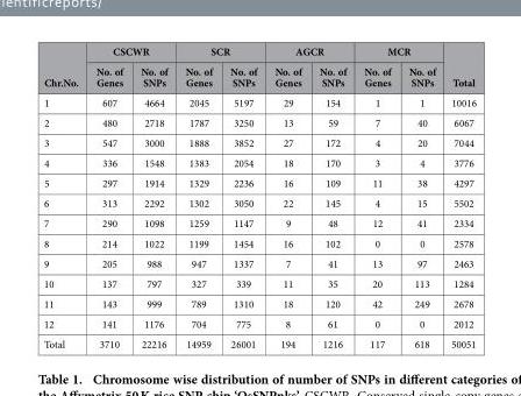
<table><thead><tr><td rowspan="2">Chr.No.</td><td colspan="2">CSCWR</td><td colspan="2">SCR</td><td colspan="2">AGCR</td><td colspan="2">MCR</td><td rowspan="2">Total</td></tr><tr><td>No. of Genes</td><td>No. of SNPs</td><td>No. of Genes</td><td>No. of SNPs</td><td>No. of Genes</td><td>No. of SNPs</td><td>No. of Genes</td><td>No. of SNPs</td></tr></thead><tbody><tr><td>1</td><td>607</td><td>4664</td><td>2045</td><td>5197</td><td>29</td><td>154</td><td>1</td><td>1</td><td>10016</td></tr><tr><td>2</td><td>480</td><td>2718</td><td>1787</td><td>3250</td><td>13</td><td>59</td><td>7</td><td>40</td><td>6067</td></tr><tr><td>3</td><td>547</td><td>3000</td><td>1888</td><td>3852</td><td>27</td><td>172</td><td>4</td><td>20</td><td>7044</td></tr><tr><td>4</td><td>336</td><td>1548</td><td>1383</td><td>2054</td><td>18</td><td>170</td><td>3</td><td>4</td><td>3776</td></tr><tr><td>5</td><td>297</td><td>1914</td><td>1329</td><td>2236</td><td>16</td><td>109</td><td>11</td><td>38</td><td>4297</td></tr><tr><td>6</td><td>313</td><td>2292</td><td>1302</td><td>3050</td><td>22</td><td>145</td><td>4</td><td>15</td><td>5502</td></tr><tr><td>7</td><td>290</td><td>1098</td><td>1259</td><td>1147</td><td>9</td><td>48</td><td>12</td><td>41</td><td>2334</td></tr><tr><td>8</td><td>214</td><td>1022</td><td>1199</td><td>1454</td><td>16</td><td>102</td><td>0</td><td>0</td><td>2578</td></tr><tr><td>9</td><td>205</td><td>988</td><td>947</td><td>1337</td><td>7</td><td>41</td><td>13</td><td>97</td><td>2463</td></tr><tr><td>10</td><td>137</td><td>797</td><td>327</td><td>339</td><td>11</td><td>35</td><td>20</td><td>113</td><td>1284</td></tr><tr><td>11</td><td>143</td><td>999</td><td>789</td><td>1310</td><td>18</td><td>120</td><td>42</td><td>249</td><td>2678</td></tr><tr><td>12</td><td>141</td><td>1176</td><td>704</td><td>775</td><td>8</td><td>61</td><td>0</td><td>0</td><td>2012</td></tr><tr><td>Total</td><td>3710</td><td>22216</td><td>14959</td><td>26001</td><td>194</td><td>1216</td><td>117</td><td>618</td><td>50051</td></tr></tbody></table>